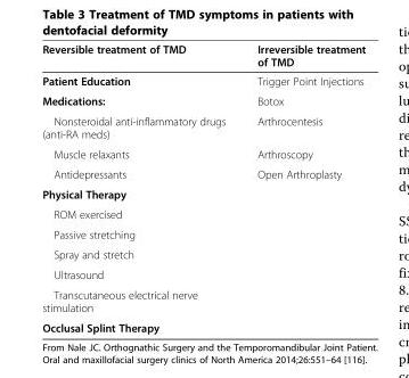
<table><thead><tr><td>Reversible treatment of TMD</td><td>Irreversible treatment of TMD</td></tr></thead><tbody><tr><td>Patient Education</td><td>Trigger Point Injections</td></tr><tr><td>Medications:</td><td>Botox</td></tr><tr><td>Nonsteroidal anti-inflammatory drugs (anti-RA meds)</td><td>Arthrocentesis</td></tr><tr><td>Muscle relaxants</td><td>Arthroscopy</td></tr><tr><td>Antidepressants</td><td>Open Arthroplasty</td></tr><tr><td colspan="2">Physical Therapy</td></tr><tr><td colspan="2">ROM exercised</td></tr><tr><td colspan="2">Passive stretching</td></tr><tr><td colspan="2">Spray and stretch</td></tr><tr><td colspan="2">Ultrasound</td></tr><tr><td colspan="2">Transcutaneous electrical nerve stimulation</td></tr><tr><td>Occlusal Splint Therapy</td><td></td></tr></tbody></table>